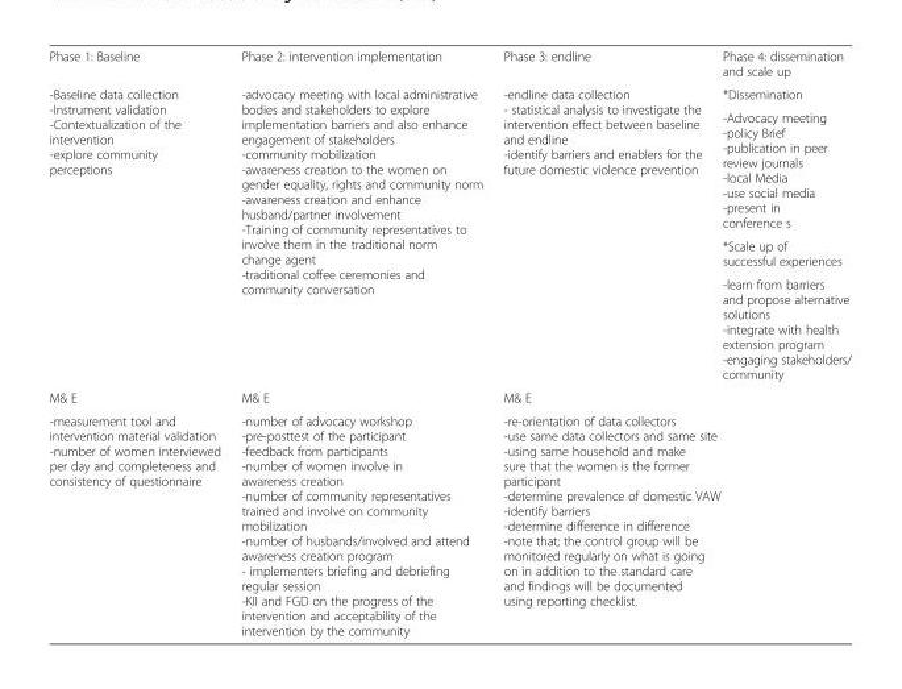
<table><tbody><tr><td>Phase 1: Baseline</td><td>Phase 2: intervention implementation</td><td>Phase 3: endline</td><td>Phase 4: dissemination and scale up</td></tr><tr><td rowspan="4">-Baseline data collection -Instrument validation -Contextualization of the intervention -explore community perceptions</td><td rowspan="4">-advocacy meeting with local administrative bodies and stakeholders to explore implementation barriers and also enhance engagement of stakeholders -community mobilization -awareness creation to the women on gender equality, rights and community norm -awareness creation and enhance husband/partner involvement -Training of community representatives to involve them in the traditional norm change agent -traditional coffee ceremonies and community conversation</td><td rowspan="4">-endline data collection - statistical analysis to investigate the intervention effect between baseline and endline -identify barriers and enablers for the future domestic violence prevention</td><td>*Dissemination</td></tr><tr><td>-Advocacy meeting -policy Brief -publication in peer review journals -local Media -use social media -present in conference s</td></tr><tr><td>*Scale up of successful experiences</td></tr><tr><td>-learn from barriers and propose alternative solutions -integrate with health extension program -engaging stakeholders/ community</td></tr><tr><td>M&amp; E</td><td>M&amp; E</td><td colspan="2">M&amp; E</td></tr><tr><td>-measurement tool and intervention material validation -number of women interviewed per day and completeness and consistency of questionnaire</td><td>-number of advocacy workshop -pre-posttest of the participant -feedback from participants -number of women involve in awareness creation -number of community representatives trained and involve on community mobilization -number of husbands/involved and attend awareness creation program - implementers briefing and debriefing regular session -KII and FGD on the progress of the intervention and acceptability of the intervention by the community</td><td colspan="2">-re-orientation of data collectors -use same data collectors and same site -using same household and make sure that the women is the former participant -determine prevalence of domestic VAW -identify barriers -determine difference in difference -note that; the control group will be monitored regularly on what is going on in addition to the standard care and findings will be documented using reporting checklist.</td></tr></tbody></table>